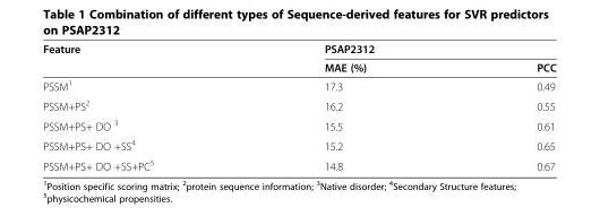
<table><thead><tr><td rowspan="2">Feature</td><td colspan="2">PSAP2312</td></tr><tr><td>MAE (%)</td><td>PCC</td></tr></thead><tbody><tr><td>PSSM<sup>1</sup></td><td>17.3</td><td>0.49</td></tr><tr><td>PSSM+PS<sup>2</sup></td><td>16.2</td><td>0.55</td></tr><tr><td>PSSM+PS+ DO <sup>3</sup></td><td>15.5</td><td>0.61</td></tr><tr><td>PSSM+PS+ DO +SS<sup>4</sup></td><td>15.2</td><td>0.65</td></tr><tr><td>PSSM+PS+ DO +SS+PC<sup>5</sup></td><td>14.8</td><td>0.67</td></tr></tbody></table>